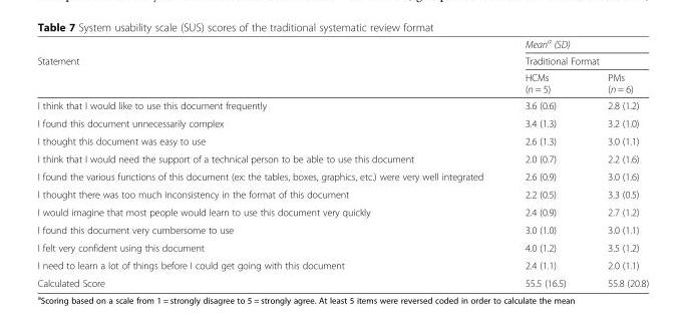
<table><thead><tr><td rowspan="3">Statement</td><td rowspan="2" colspan="2">Mean<sup>a</sup> (SD) Traditional Format</td></tr><tr></tr><tr><td>HCMs (n = 5)</td><td>PMs (n = 6)</td></tr></thead><tbody><tr><td>I think that I would like to use this document frequently</td><td>3.6 (0.6)</td><td>2.8 (1.2)</td></tr><tr><td>I found this document unnecessarily complex</td><td>3.4 (1.3)</td><td>3.2 (1.0)</td></tr><tr><td>I thought this document was easy to use</td><td>2.6 (1.3)</td><td>3.0 (1.1)</td></tr><tr><td>I think that I would need the support of a technical person to be able to use this document</td><td>2.0 (0.7)</td><td>2.2 (1.6)</td></tr><tr><td>I found the various functions of this document (ex: the tables, boxes, graphics, etc.) were very well integrated</td><td>2.6 (0.9)</td><td>3.0 (1.6)</td></tr><tr><td>I thought there was too much inconsistency in the format of this document</td><td>2.2 (0.5)</td><td>3.3 (0.5)</td></tr><tr><td>I would imagine that most people would learn to use this document very quickly</td><td>2.4 (0.9)</td><td>2.7 (1.2)</td></tr><tr><td>I found this document very cumbersome to use</td><td>3.0 (1.0)</td><td>3.0 (1.1)</td></tr><tr><td>I felt very confident using this document</td><td>4.0 (1.2)</td><td>3.5 (1.2)</td></tr><tr><td>I need to learn a lot of things before I could get going with this document</td><td>2.4 (1.1)</td><td>2.0 (1.1)</td></tr><tr><td>Calculated Score</td><td>55.5 (16.5)</td><td>55.8 (20.8)</td></tr></tbody></table>